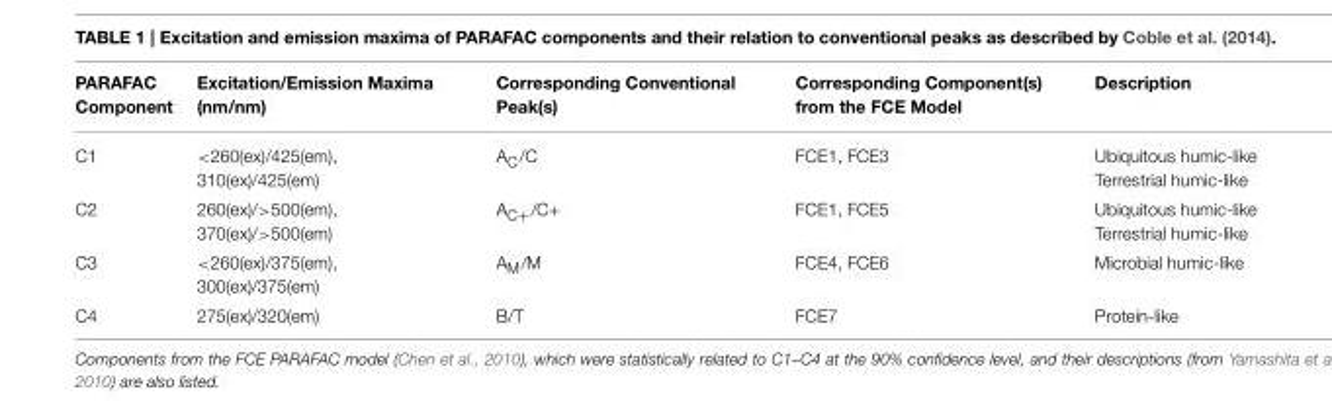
<table><thead><tr><td>PARAFAC Component</td><td>Excitation/Emission Maxima (nm/nm)</td><td>Corresponding Conventional Peak(s)</td><td>Corresponding Component(s) from the FCE Model</td><td>Description</td></tr></thead><tbody><tr><td>C1</td><td>&lt;260(ex)/425(em), 310(ex)/425(em)</td><td>A<sub>C</sub>/C</td><td>FCE1, FCE3</td><td>Ubiquitous humic-like Terrestrial humic-like</td></tr><tr><td>C2</td><td>260(ex)/&gt;500(em), 370(ex)/&gt;500(em)</td><td>A<sub>C+</sub>/C+</td><td>FCE1, FCE5</td><td>Ubiquitous humic-like Terrestrial humic-like</td></tr><tr><td>C3</td><td>&lt;260(ex)/375(em), 300(ex)/375(em)</td><td>A<sub>M</sub>/M</td><td>FCE4, FCE6</td><td>Microbial humic-like</td></tr><tr><td>C4</td><td>275(ex)/320(em)</td><td>B/T</td><td>FCE7</td><td>Protein-like</td></tr></tbody></table>